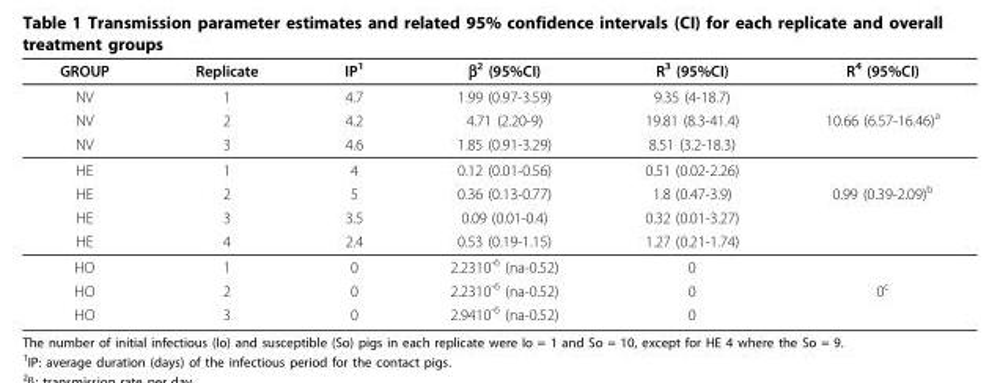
<table><thead><tr><td>GROUP</td><td>Replicate</td><td>IP<sup>1</sup></td><td>β<sup>2</sup> (95%CI)</td><td>R<sup>3</sup> (95%CI)</td><td>R<sup>4</sup> (95%CI)</td></tr></thead><tbody><tr><td>NV</td><td>1</td><td>4.7</td><td>1.99 (0.97-3.59)</td><td>9.35 (4-18.7)</td><td></td></tr><tr><td>NV</td><td>2</td><td>4.2</td><td>4.71 (2.20-9)</td><td>19.81 (8.3-41.4)</td><td>10.66 (6.57-16.46)<sup>a</sup></td></tr><tr><td>NV</td><td>3</td><td>4.6</td><td>1.85 (0.91-3.29)</td><td>8.51 (3.2-18.3)</td><td></td></tr><tr><td>HE</td><td>1</td><td>4</td><td>0.12 (0.01-0.56)</td><td>0.51 (0.02-2.26)</td><td></td></tr><tr><td>HE</td><td>2</td><td>5</td><td>0.36 (0.13-0.77)</td><td>1.8 (0.47-3.9)</td><td>0.99 (0.39-2.09)<sup>b</sup></td></tr><tr><td>HE</td><td>3</td><td>3.5</td><td>0.09 (0.01-0.4)</td><td>0.32 (0.01-3.27)</td><td></td></tr><tr><td>HE</td><td>4</td><td>2.4</td><td>0.53 (0.19-1.15)</td><td>1.27 (0.21-1.74)</td><td></td></tr><tr><td>HO</td><td>1</td><td>0</td><td>2.2310<sup>-6</sup> (na-0.52)</td><td>0</td><td></td></tr><tr><td>HO</td><td>2</td><td>0</td><td>2.2310<sup>-6</sup> (na-0.52)</td><td>0</td><td>0<sup>c</sup></td></tr><tr><td>HO</td><td>3</td><td>0</td><td>2.9410<sup>-6</sup> (na-0.52)</td><td>0</td><td></td></tr></tbody></table>